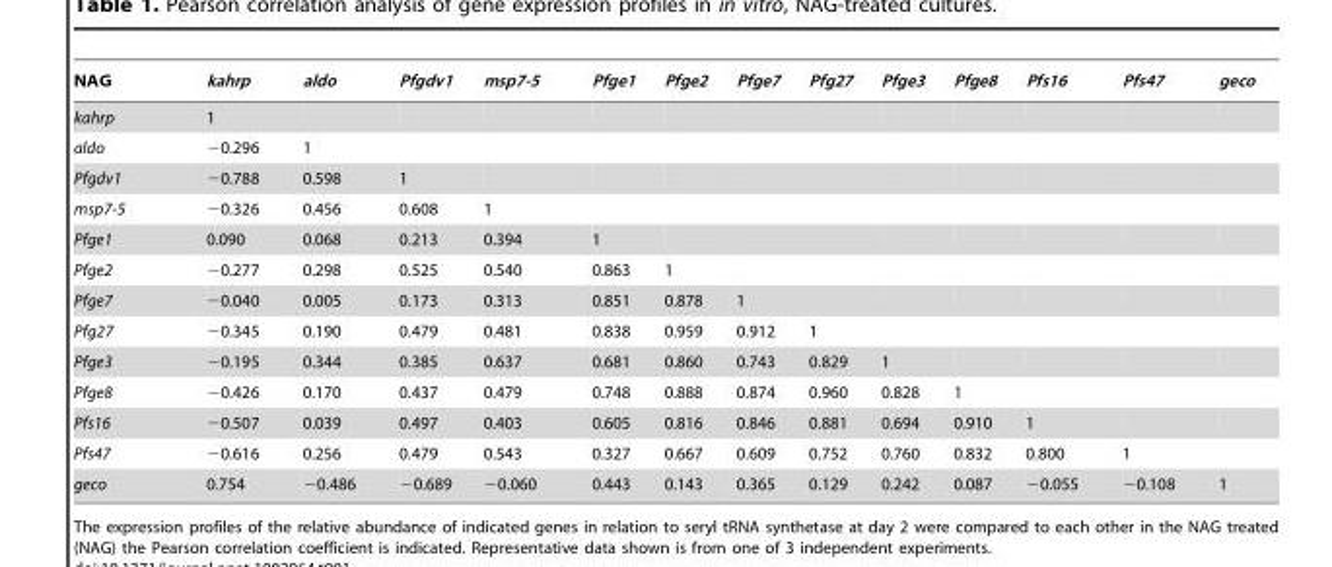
<table><thead><tr><td>NAG</td><td>kahrp</td><td>aldo</td><td>Pfgdv1</td><td>msp7-5</td><td>Pfge1</td><td>Pfge2</td><td>Pfge7</td><td>Pfg27</td><td>Pfge3</td><td>Pfge8</td><td>Pfs16</td><td>Pfs47</td><td>geco</td></tr></thead><tbody><tr><td>kahrp</td><td>1</td><td></td><td></td><td></td><td></td><td></td><td></td><td></td><td></td><td></td><td></td><td></td><td></td></tr><tr><td>aldo</td><td>−0.296</td><td>1</td><td></td><td></td><td></td><td></td><td></td><td></td><td></td><td></td><td></td><td></td><td></td></tr><tr><td>Pfgdv1</td><td>−0.788</td><td>0.598</td><td>1</td><td></td><td></td><td></td><td></td><td></td><td></td><td></td><td></td><td></td><td></td></tr><tr><td>msp7-5</td><td>−0.326</td><td>0.456</td><td>0.608</td><td>1</td><td></td><td></td><td></td><td></td><td></td><td></td><td></td><td></td><td></td></tr><tr><td>Pfge1</td><td>0.090</td><td>0.068</td><td>0.213</td><td>0.394</td><td>1</td><td></td><td></td><td></td><td></td><td></td><td></td><td></td><td></td></tr><tr><td>Pfge2</td><td>−0.277</td><td>0.298</td><td>0.525</td><td>0.540</td><td>0.863</td><td>1</td><td></td><td></td><td></td><td></td><td></td><td></td><td></td></tr><tr><td>Pfge7</td><td>−0.040</td><td>0.005</td><td>0.173</td><td>0.313</td><td>0.851</td><td>0.878</td><td>1</td><td></td><td></td><td></td><td></td><td></td><td></td></tr><tr><td>Pfg27</td><td>−0.345</td><td>0.190</td><td>0.479</td><td>0.481</td><td>0.838</td><td>0.959</td><td>0.912</td><td>1</td><td></td><td></td><td></td><td></td><td></td></tr><tr><td>Pfge3</td><td>−0.195</td><td>0.344</td><td>0.385</td><td>0.637</td><td>0.681</td><td>0.860</td><td>0.743</td><td>0.829</td><td>1</td><td></td><td></td><td></td><td></td></tr><tr><td>Pfge8</td><td>−0.426</td><td>0.170</td><td>0.437</td><td>0.479</td><td>0.748</td><td>0.888</td><td>0.874</td><td>0.960</td><td>0.828</td><td>1</td><td></td><td></td><td></td></tr><tr><td>Pfs16</td><td>−0.507</td><td>0.039</td><td>0.497</td><td>0.403</td><td>0.605</td><td>0.816</td><td>0.846</td><td>0.881</td><td>0.694</td><td>0.910</td><td>1</td><td></td><td></td></tr><tr><td>Pfs47</td><td>−0.616</td><td>0.256</td><td>0.479</td><td>0.543</td><td>0.327</td><td>0.667</td><td>0.609</td><td>0.752</td><td>0.760</td><td>0.832</td><td>0.800</td><td>1</td><td></td></tr><tr><td>geco</td><td>0.754</td><td>−0.486</td><td>−0.689</td><td>−0.060</td><td>0.443</td><td>0.143</td><td>0.365</td><td>0.129</td><td>0.242</td><td>0.087</td><td>−0.055</td><td>−0.108</td><td>1</td></tr></tbody></table>